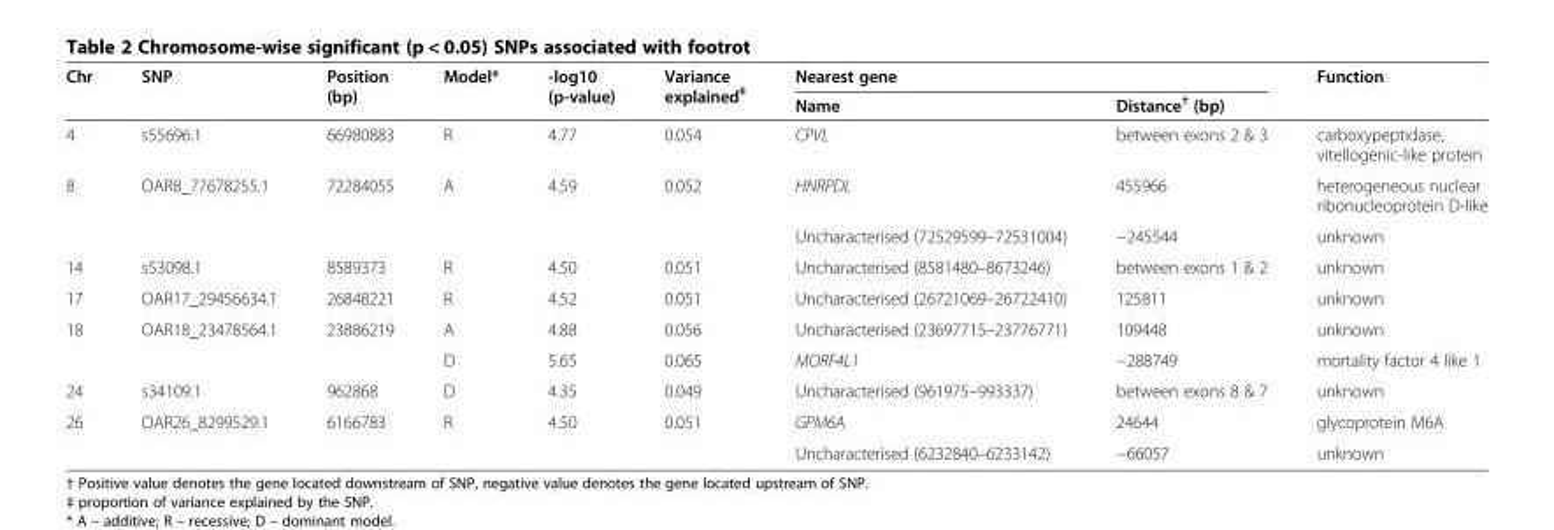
<table><thead><tr><td rowspan="2">Chr</td><td rowspan="2">SNP</td><td rowspan="2">Position (bp)</td><td rowspan="2">Model*</td><td rowspan="2">-log10 (p-value)</td><td rowspan="2">Variance explained<sup>‡</sup></td><td colspan="2">Nearest gene</td><td rowspan="2">Function</td></tr><tr><td>Name</td><td>Distance<sup>†</sup> (bp)</td></tr></thead><tbody><tr><td>4</td><td>s55696.1</td><td>66980883</td><td>R</td><td>4.77</td><td>0.054</td><td>CPVL</td><td>between exons 2 &amp; 3</td><td>carboxypeptidase, vitellogenic-like protein</td></tr><tr><td rowspan="2">8</td><td rowspan="2">OAR8_77678255.1</td><td rowspan="2">72284055</td><td rowspan="2">A</td><td rowspan="2">4.59</td><td rowspan="2">0.052</td><td>HNRPDL</td><td>455966</td><td>heterogeneous nuclear ribonucleoprotein D-like</td></tr><tr><td>Uncharacterised (72529599–72531004)</td><td>−245544</td><td>unknown</td></tr><tr><td>14</td><td>s53098.1</td><td>8589373</td><td>R</td><td>4.50</td><td>0.051</td><td>Uncharacterised (8581480–8673246)</td><td>between exons 1 &amp; 2</td><td>unknown</td></tr><tr><td>17</td><td>OAR17_29456634.1</td><td>26848221</td><td>R</td><td>4.52</td><td>0.051</td><td>Uncharacterised (26721069–26722410)</td><td>125811</td><td>unknown</td></tr><tr><td rowspan="2">18</td><td rowspan="2">OAR18_23478564.1</td><td rowspan="2">23886219</td><td>A</td><td>4.88</td><td>0.056</td><td>Uncharacterised (23697715–23776771)</td><td>109448</td><td>unknown</td></tr><tr><td>D</td><td>5.65</td><td>0.065</td><td>MORF4L1</td><td>−288749</td><td>mortality factor 4 like 1</td></tr><tr><td>24</td><td>s34109.1</td><td>962868</td><td>D</td><td>4.35</td><td>0.049</td><td>Uncharacterised (961975–993337)</td><td>between exons 8 &amp; 7</td><td>unknown</td></tr><tr><td rowspan="2">26</td><td rowspan="2">OAR26_8299529.1</td><td rowspan="2">6166783</td><td rowspan="2">R</td><td rowspan="2">4.50</td><td rowspan="2">0.051</td><td>GPM6A</td><td>24644</td><td>glycoprotein M6A</td></tr><tr><td>Uncharacterised (6232840–6233142)</td><td>−66057</td><td>unknown</td></tr></tbody></table>